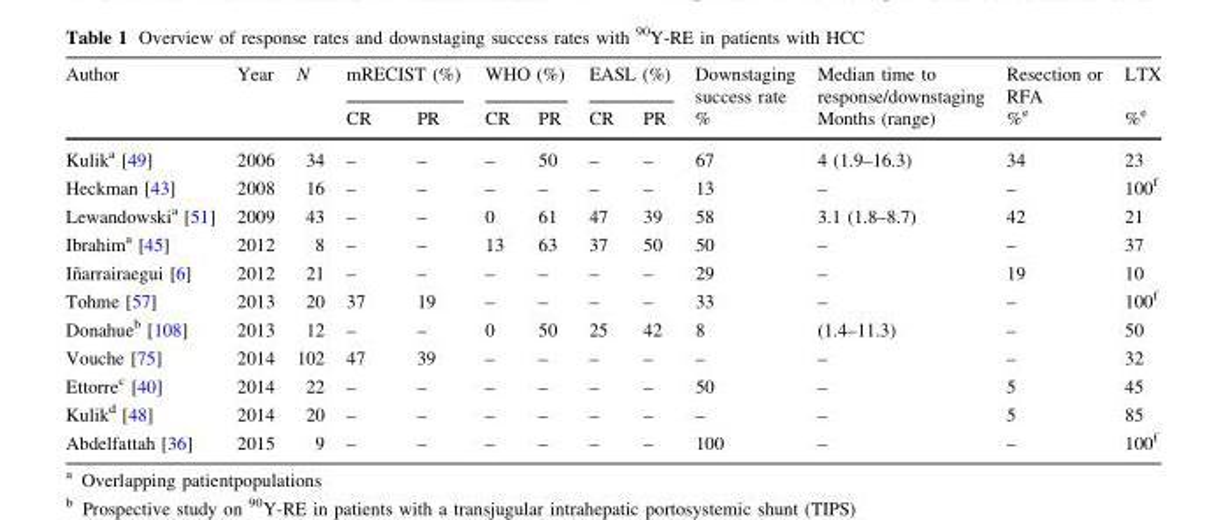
<table><thead><tr><td rowspan="2">Author</td><td rowspan="2">Year</td><td rowspan="2">N</td><td colspan="2">mRECIST (%)</td><td colspan="2">WHO (%)</td><td colspan="2">EASL (%)</td><td rowspan="2">Downstaging success rate %</td><td rowspan="2">Median time to response/downstaging Months (range)</td><td rowspan="2">Resection or RFA %<sup>e</sup></td><td rowspan="2">LTX %<sup>e</sup></td></tr><tr><td>CR</td><td>PR</td><td>CR</td><td>PR</td><td>CR</td><td>PR</td></tr></thead><tbody><tr><td>Kulik<sup>a</sup> [49]</td><td>2006</td><td>34</td><td>–</td><td>–</td><td>–</td><td>50</td><td>–</td><td>–</td><td>67</td><td>4 (1.9–16.3)</td><td>34</td><td>23</td></tr><tr><td>Heckman [43]</td><td>2008</td><td>16</td><td>–</td><td>–</td><td>–</td><td>–</td><td>–</td><td>–</td><td>13</td><td>–</td><td>–</td><td>100<sup>f</sup></td></tr><tr><td>Lewandowski<sup>a</sup> [51]</td><td>2009</td><td>43</td><td>–</td><td>–</td><td>0</td><td>61</td><td>47</td><td>39</td><td>58</td><td>3.1 (1.8–8.7)</td><td>42</td><td>21</td></tr><tr><td>Ibrahim<sup>a</sup> [45]</td><td>2012</td><td>8</td><td>–</td><td>–</td><td>13</td><td>63</td><td>37</td><td>50</td><td>50</td><td>–</td><td>–</td><td>37</td></tr><tr><td>In˜arrairaegui [6]</td><td>2012</td><td>21</td><td>–</td><td>–</td><td>–</td><td>–</td><td>–</td><td>–</td><td>29</td><td>–</td><td>19</td><td>10</td></tr><tr><td>Tohme [57]</td><td>2013</td><td>20</td><td>37</td><td>19</td><td>–</td><td>–</td><td>–</td><td>–</td><td>33</td><td>–</td><td>–</td><td>100<sup>f</sup></td></tr><tr><td>Donahue<sup>b</sup> [108]</td><td>2013</td><td>12</td><td>–</td><td>–</td><td>0</td><td>50</td><td>25</td><td>42</td><td>8</td><td>(1.4–11.3)</td><td>–</td><td>50</td></tr><tr><td>Vouche [75]</td><td>2014</td><td>102</td><td>47</td><td>39</td><td>–</td><td>–</td><td>–</td><td>–</td><td>–</td><td>–</td><td>–</td><td>32</td></tr><tr><td>Ettorre<sup>c</sup> [40]</td><td>2014</td><td>22</td><td>–</td><td>–</td><td>–</td><td>–</td><td>–</td><td>–</td><td>50</td><td>–</td><td>5</td><td>45</td></tr><tr><td>Kulik<sup>d</sup> [48]</td><td>2014</td><td>20</td><td>–</td><td>–</td><td>–</td><td>–</td><td>–</td><td>–</td><td>–</td><td>–</td><td>5</td><td>85</td></tr><tr><td>Abdelfattah [36]</td><td>2015</td><td>9</td><td>–</td><td>–</td><td>–</td><td>–</td><td>–</td><td>–</td><td>100</td><td>–</td><td>–</td><td>100<sup>f</sup></td></tr></tbody></table>